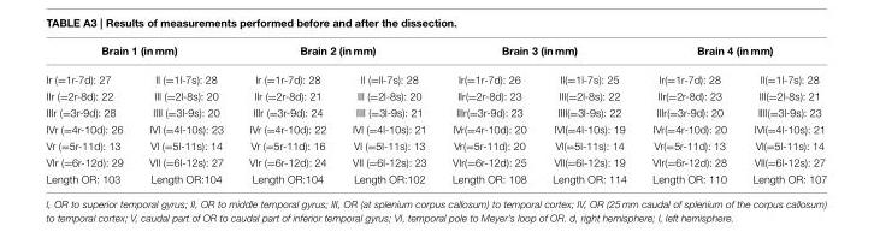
<table><thead><tr><td colspan="2">Brain 1 (in mm)</td><td colspan="2">Brain 2 (in mm)</td><td colspan="2">Brain 3 (in mm)</td><td colspan="2">Brain 4 (in mm)</td></tr><tr><td>Ir (=1r-7d): 27</td><td>Il (=1l-7s): 28</td><td>Ir (=1r-7d): 28</td><td>Il (=ll-7s): 28</td><td>Ir(=1r-7d): 26</td><td>Il(=1l-7s): 25</td><td>Ir(=1r-7d): 28</td><td>Il(=1l-7s): 28</td></tr></thead><tbody><tr><td>IIr (=2r-8d): 22</td><td>IIl (=2l-8s): 20</td><td>IIr (=2r-8d): 21</td><td>IIl (=2l-8s): 20</td><td>IIr(=2r-8d): 23</td><td>IIl(=2l-8s): 22</td><td>IIr(=2r-8d): 23</td><td>IIl(=2l-8s): 21</td></tr><tr><td>IIIr (=3r-9d): 28</td><td>IIIl (=3l-9s): 20</td><td>IIIr (=3r-9d): 24</td><td>IIIl (=3l-9s): 21</td><td>IIIr(=3r-9d): 23</td><td>IIIl(=3l-9s): 22</td><td>IIIr(=3r-9d): 20</td><td>IIIl(=3l-9s): 23</td></tr><tr><td>IVr (=4r-10d): 26</td><td>IVl (=4l-10s): 23</td><td>IVr (=4r-10d): 22</td><td>IVl (=4l-10s): 21</td><td>IVr(=4r-10d): 20</td><td>IVl(=4l-10s): 19</td><td>IVr(=4r-10d): 20</td><td>IVl(=4l-10s): 21</td></tr><tr><td>Vr (=5r-11d): 13</td><td>Vl (=5l-11s): 14</td><td>Vr (=5r-11d): 16</td><td>Vl (=5l-11s): 13</td><td>Vr(=5r-11d): 20</td><td>Vl(=5l-11s): 14</td><td>Vr(=5r-11d): 13</td><td>Vl(=5l-11s): 14</td></tr><tr><td>VIr (=6r-12d): 29</td><td>VIl (=6l-12s): 27</td><td>VIr (=6r-12d): 24</td><td>VIl (=6l-12s): 23</td><td>VIr(=6r-12d): 25</td><td>VIl(=6l-12s): 19</td><td>VIr(=6r-12d): 28</td><td>VIl(=6l-12s): 27</td></tr><tr><td>Length OR: 103</td><td>Length OR:104</td><td>Length OR:104</td><td>Length OR:102</td><td>Length OR: 108</td><td>Length OR: 114</td><td>Length OR: 110</td><td>Length OR: 107</td></tr></tbody></table>